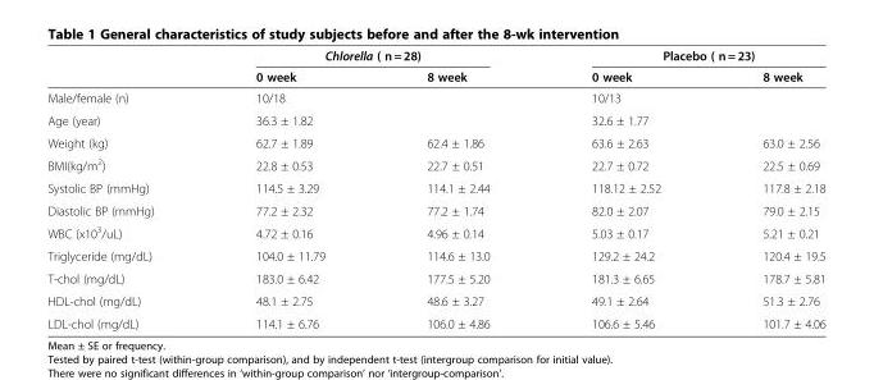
<table><thead><tr><td rowspan="2"></td><td colspan="2">Chlorella ( n = 28)</td><td colspan="2">Placebo ( n = 23)</td></tr><tr><td>0 week</td><td>8 week</td><td>0 week</td><td>8 week</td></tr></thead><tbody><tr><td>Male/female (n)</td><td>10/18</td><td></td><td>10/13</td><td></td></tr><tr><td>Age (year)</td><td>36.3 ± 1.82</td><td></td><td>32.6 ± 1.77</td><td></td></tr><tr><td>Weight (kg)</td><td>62.7 ± 1.89</td><td>62.4 ± 1.86</td><td>63.6 ± 2.63</td><td>63.0 ± 2.56</td></tr><tr><td>BMI(kg/m<sup>2</sup>)</td><td>22.8 ± 0.53</td><td>22.7 ± 0.51</td><td>22.7 ± 0.72</td><td>22.5 ± 0.69</td></tr><tr><td>Systolic BP (mmHg)</td><td>114.5 ± 3.29</td><td>114.1 ± 2.44</td><td>118.12 ± 2.52</td><td>117.8 ± 2.18</td></tr><tr><td>Diastolic BP (mmHg)</td><td>77.2 ± 2.32</td><td>77.2 ± 1.74</td><td>82.0 ± 2.07</td><td>79.0 ± 2.15</td></tr><tr><td>WBC (х10<sup>3</sup>/uL)</td><td>4.72 ± 0.16</td><td>4.96 ± 0.14</td><td>5.03 ± 0.17</td><td>5.21 ± 0.21</td></tr><tr><td>Triglyceride (mg/dL)</td><td>104.0 ± 11.79</td><td>114.6 ± 13.0</td><td>129.2 ± 24.2</td><td>120.4 ± 19.5</td></tr><tr><td>T-chol (mg/dL)</td><td>183.0 ± 6.42</td><td>177.5 ± 5.20</td><td>181.3 ± 6.65</td><td>178.7 ± 5.81</td></tr><tr><td>HDL-chol (mg/dL)</td><td>48.1 ± 2.75</td><td>48.6 ± 3.27</td><td>49.1 ± 2.64</td><td>51.3 ± 2.76</td></tr><tr><td>LDL-chol (mg/dL)</td><td>114.1 ± 6.76</td><td>106.0 ± 4.86</td><td>106.6 ± 5.46</td><td>101.7 ± 4.06</td></tr></tbody></table>